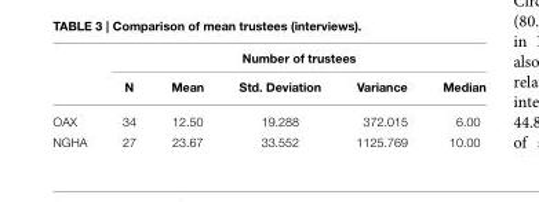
<table><thead><tr><td rowspan="2"></td><td colspan="5">Number of trustees</td></tr><tr><td>N</td><td>Mean</td><td>Std. Deviation</td><td>Variance</td><td>Median</td></tr></thead><tbody><tr><td>OAX</td><td>34</td><td>12.50</td><td>19.288</td><td>372.015</td><td>6.00</td></tr><tr><td>NGHA</td><td>27</td><td>23.67</td><td>33.552</td><td>1125.769</td><td>10.00</td></tr></tbody></table>